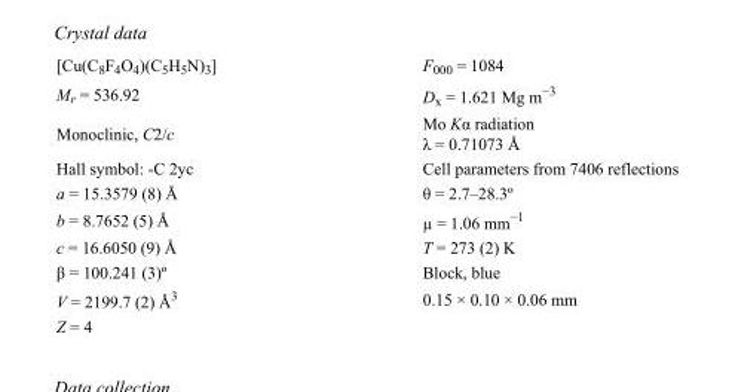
<table><tbody><tr><td>[Cu(C<sub>8</sub>F<sub>4</sub>O<sub>4</sub>)(C<sub>5</sub>H<sub>5</sub>N)<sub>3</sub>]</td><td>F<sub>000</sub> = 1084</td></tr><tr><td>M<sub>r</sub> = 536.92</td><td>D<sub>x</sub> = 1.621 Mg m<sup>−3</sup></td></tr><tr><td>Monoclinic, C2/c</td><td>Mo Kα radiation λ = 0.71073 Å</td></tr><tr><td>Hall symbol: -C 2yc</td><td>Cell parameters from 7406 reflections</td></tr><tr><td>a = 15.3579 (8) Å</td><td>θ = 2.7–28.3º</td></tr><tr><td>b = 8.7652 (5) Å</td><td>µ = 1.06 mm<sup>−1</sup></td></tr><tr><td>c = 16.6050 (9) Å</td><td>T = 273 (2) K</td></tr><tr><td>β = 100.241 (3)º</td><td>Block, blue</td></tr><tr><td>V = 2199.7 (2) Å<sup>3</sup></td><td>0.15 × 0.10 × 0.06 mm</td></tr><tr><td>Z = 4</td><td></td></tr></tbody></table>